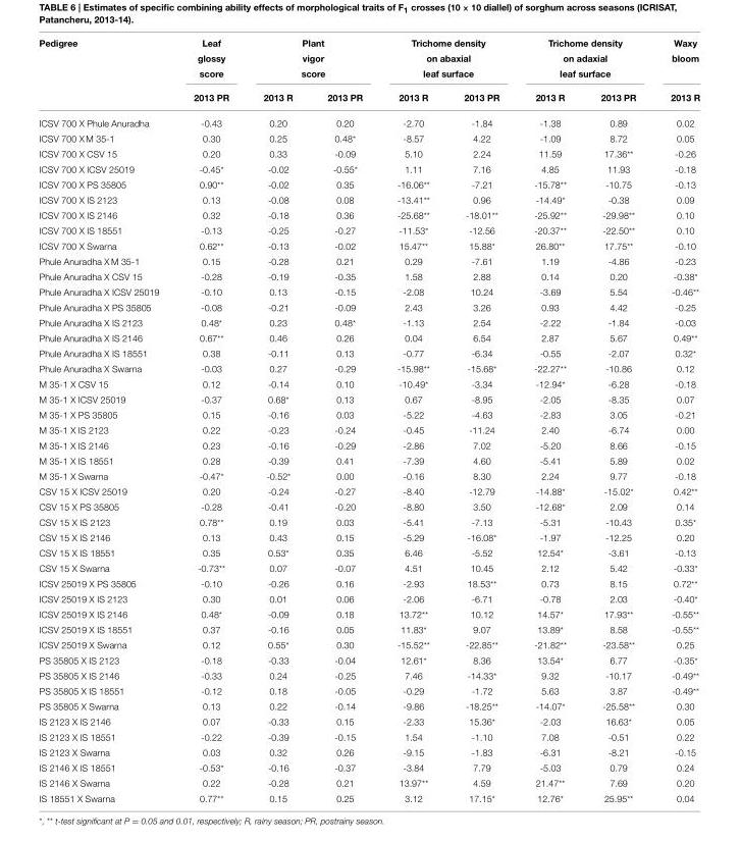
<table><thead><tr><td rowspan="2">Pedigree</td><td rowspan="2">Leaf glossy score 2013 PR</td><td colspan="2">Plant vigor score</td><td colspan="2">Trichome density on abaxial leaf surface</td><td colspan="2">Trichome density on adaxial leaf surface</td><td rowspan="2">Waxy bloom 2013 R</td></tr><tr><td>2013 R</td><td>2013 PR</td><td>2013 R</td><td>2013 PR</td><td>2013 R</td><td>2013 PR</td></tr></thead><tbody><tr><td>ICSV 700 X Phule Anuradha</td><td>-0.43</td><td>0.20</td><td>0.20</td><td>-2.70</td><td>-1.84</td><td>-1.38</td><td>0.89</td><td>0.02</td></tr><tr><td>ICSV 700 X M 35-1</td><td>0.30</td><td>0.25</td><td>0.48*</td><td>-8.57</td><td>4.22</td><td>-1.09</td><td>8.72</td><td>0.05</td></tr><tr><td>ICSV 700 X CSV 15</td><td>0.20</td><td>0.33</td><td>-0.09</td><td>5.10</td><td>2.24</td><td>11.59</td><td>17.36**</td><td>-0.26</td></tr><tr><td>ICSV 700 X ICSV 25019</td><td>-0.45*</td><td>-0.02</td><td>-0.55*</td><td>1.11</td><td>7.16</td><td>4.85</td><td>11.93</td><td>-0.18</td></tr><tr><td>ICSV 700 X PS 35805</td><td>0.90**</td><td>-0.02</td><td>0.35</td><td>-16.06**</td><td>-7.21</td><td>-15.78**</td><td>-10.75</td><td>-0.13</td></tr><tr><td>ICSV 700 X IS 2123</td><td>0.13</td><td>-0.08</td><td>0.08</td><td>-13.41**</td><td>0.96</td><td>-14.49*</td><td>-0.38</td><td>0.09</td></tr><tr><td>ICSV 700 X IS 2146</td><td>0.32</td><td>-0.18</td><td>0.36</td><td>-25.68**</td><td>-18.01**</td><td>-25.92**</td><td>-29.98**</td><td>0.10</td></tr><tr><td>ICSV 700 X IS 18551</td><td>-0.13</td><td>-0.25</td><td>-0.27</td><td>-11.53*</td><td>-12.56</td><td>-20.37**</td><td>-22.50**</td><td>0.10</td></tr><tr><td>ICSV 700 X Swarna</td><td>0.62**</td><td>-0.13</td><td>-0.02</td><td>15.47**</td><td>15.88*</td><td>26.80**</td><td>17.75**</td><td>-0.10</td></tr><tr><td>Phule Anuradha X M 35-1</td><td>0.15</td><td>-0.28</td><td>0.21</td><td>0.29</td><td>-7.61</td><td>1.19</td><td>-4.86</td><td>-0.23</td></tr><tr><td>Phule Anuradha X CSV 15</td><td>-0.28</td><td>-0.19</td><td>-0.35</td><td>1.58</td><td>2.88</td><td>0.14</td><td>0.20</td><td>-0.38*</td></tr><tr><td>Phule Anuradha X ICSV 25019</td><td>-0.10</td><td>0.13</td><td>-0.15</td><td>-2.08</td><td>10.24</td><td>-3.69</td><td>5.54</td><td>-0.46**</td></tr><tr><td>Phule Anuradha X PS 35805</td><td>-0.08</td><td>-0.21</td><td>-0.09</td><td>2.43</td><td>3.26</td><td>0.93</td><td>4.42</td><td>-0.25</td></tr><tr><td>Phule Anuradha X IS 2123</td><td>0.48*</td><td>0.23</td><td>0.48*</td><td>-1.13</td><td>2.54</td><td>-2.22</td><td>-1.84</td><td>-0.03</td></tr><tr><td>Phule Anuradha X IS 2146</td><td>0.67**</td><td>0.46</td><td>0.26</td><td>0.04</td><td>6.54</td><td>2.87</td><td>5.67</td><td>0.49**</td></tr><tr><td>Phule Anuradha X IS 18551</td><td>0.38</td><td>-0.11</td><td>0.13</td><td>-0.77</td><td>-6.34</td><td>-0.55</td><td>-2.07</td><td>0.32*</td></tr><tr><td>Phule Anuradha X Swarna</td><td>-0.03</td><td>0.27</td><td>-0.29</td><td>-15.98**</td><td>-15.68*</td><td>-22.27**</td><td>-10.86</td><td>0.12</td></tr><tr><td>M 35-1 X CSV 15</td><td>0.12</td><td>-0.14</td><td>0.10</td><td>-10.49*</td><td>-3.34</td><td>-12.94*</td><td>-6.28</td><td>-0.18</td></tr><tr><td>M 35-1 X ICSV 25019</td><td>-0.37</td><td>0.68*</td><td>0.13</td><td>0.67</td><td>-8.95</td><td>-2.05</td><td>-8.35</td><td>0.07</td></tr><tr><td>M 35-1 X PS 35805</td><td>0.15</td><td>-0.16</td><td>0.03</td><td>-5.22</td><td>-4.63</td><td>-2.83</td><td>3.05</td><td>-0.21</td></tr><tr><td>M 35-1 X IS 2123</td><td>0.22</td><td>-0.23</td><td>-0.24</td><td>-0.45</td><td>-11.24</td><td>2.40</td><td>-6.74</td><td>0.00</td></tr><tr><td>M 35-1 X IS 2146</td><td>0.23</td><td>-0.16</td><td>-0.29</td><td>-2.86</td><td>7.02</td><td>-5.20</td><td>8.66</td><td>-0.15</td></tr><tr><td>M 35-1 X IS 18551</td><td>0.28</td><td>-0.39</td><td>0.41</td><td>-7.39</td><td>4.60</td><td>-5.41</td><td>5.89</td><td>0.02</td></tr><tr><td>M 35-1 X Swarna</td><td>-0.47*</td><td>-0.52*</td><td>0.00</td><td>-0.16</td><td>8.30</td><td>2.24</td><td>9.77</td><td>-0.18</td></tr><tr><td>CSV 15 X ICSV 25019</td><td>0.20</td><td>-0.24</td><td>-0.27</td><td>-8.40</td><td>-12.79</td><td>-14.88*</td><td>-15.02*</td><td>0.42**</td></tr><tr><td>CSV 15 X PS 35805</td><td>-0.28</td><td>-0.41</td><td>-0.20</td><td>-8.80</td><td>3.50</td><td>-12.68*</td><td>2.09</td><td>0.14</td></tr><tr><td>CSV 15 X IS 2123</td><td>0.78**</td><td>0.19</td><td>0.03</td><td>-5.41</td><td>-7.13</td><td>-5.31</td><td>-10.43</td><td>0.35*</td></tr><tr><td>CSV 15 X IS 2146</td><td>0.13</td><td>0.43</td><td>0.15</td><td>-5.29</td><td>-16.08*</td><td>-1.97</td><td>-12.25</td><td>0.20</td></tr><tr><td>CSV 15 X IS 18551</td><td>0.35</td><td>0.53*</td><td>0.35</td><td>6.46</td><td>-5.52</td><td>12.54*</td><td>-3.61</td><td>-0.13</td></tr><tr><td>CSV 15 X Swarna</td><td>-0.73**</td><td>0.07</td><td>-0.07</td><td>4.51</td><td>10.45</td><td>2.12</td><td>5.42</td><td>-0.33*</td></tr><tr><td>ICSV 25019 X PS 35805</td><td>-0.10</td><td>-0.26</td><td>0.16</td><td>-2.93</td><td>18.53**</td><td>0.73</td><td>8.15</td><td>0.72**</td></tr><tr><td>ICSV 25019 X IS 2123</td><td>0.30</td><td>0.01</td><td>0.06</td><td>-2.06</td><td>-6.71</td><td>-0.78</td><td>2.03</td><td>-0.40*</td></tr><tr><td>ICSV 25019 X IS 2146</td><td>0.48*</td><td>-0.09</td><td>0.18</td><td>13.72**</td><td>10.12</td><td>14.57*</td><td>17.93**</td><td>-0.55**</td></tr><tr><td>ICSV 25019 X IS 18551</td><td>0.37</td><td>-0.16</td><td>0.05</td><td>11.83*</td><td>9.07</td><td>13.89*</td><td>8.58</td><td>-0.55**</td></tr><tr><td>ICSV 25019 X Swarna</td><td>0.12</td><td>0.55*</td><td>0.30</td><td>-15.52**</td><td>-22.85**</td><td>-21.82**</td><td>-23.58**</td><td>0.25</td></tr><tr><td>PS 35805 X IS 2123</td><td>-0.18</td><td>-0.33</td><td>-0.04</td><td>12.61*</td><td>8.36</td><td>13.54*</td><td>6.77</td><td>-0.35*</td></tr><tr><td>PS 35805 X IS 2146</td><td>-0.33</td><td>0.24</td><td>-0.25</td><td>7.46</td><td>-14.33*</td><td>9.32</td><td>-10.17</td><td>-0.49**</td></tr><tr><td>PS 35805 X IS 18551</td><td>-0.12</td><td>0.18</td><td>-0.05</td><td>-0.29</td><td>-1.72</td><td>5.63</td><td>3.87</td><td>-0.49**</td></tr><tr><td>PS 35805 X Swarna</td><td>0.13</td><td>0.22</td><td>-0.14</td><td>-9.86</td><td>-18.25**</td><td>-14.07*</td><td>-25.58**</td><td>0.30</td></tr><tr><td>IS 2123 X IS 2146</td><td>0.07</td><td>-0.33</td><td>0.15</td><td>-2.33</td><td>15.36*</td><td>-2.03</td><td>16.63*</td><td>0.05</td></tr><tr><td>IS 2123 X IS 18551</td><td>-0.22</td><td>-0.39</td><td>-0.15</td><td>1.54</td><td>-1.10</td><td>7.08</td><td>-0.51</td><td>0.22</td></tr><tr><td>IS 2123 X Swarna</td><td>0.03</td><td>0.32</td><td>0.26</td><td>-9.15</td><td>-1.83</td><td>-6.31</td><td>-8.21</td><td>-0.15</td></tr><tr><td>IS 2146 X IS 18551</td><td>-0.53*</td><td>-0.16</td><td>-0.37</td><td>-3.84</td><td>7.79</td><td>-5.03</td><td>0.79</td><td>0.24</td></tr><tr><td>IS 2146 X Swarna</td><td>0.22</td><td>-0.28</td><td>0.21</td><td>13.97**</td><td>4.59</td><td>21.47**</td><td>7.69</td><td>0.20</td></tr><tr><td>IS 18551 X Swarna</td><td>0.77**</td><td>0.15</td><td>0.25</td><td>3.12</td><td>17.15*</td><td>12.76*</td><td>25.95**</td><td>0.04</td></tr></tbody></table>